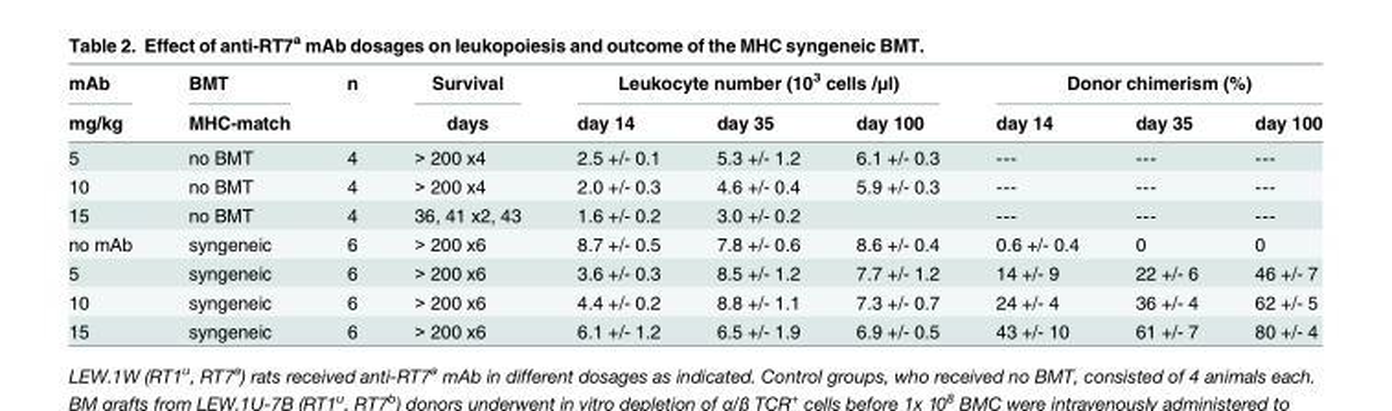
<table><thead><tr><td rowspan="2">mAb mg/kg</td><td rowspan="2">BMT MHC-match</td><td rowspan="2">n</td><td rowspan="2">Survival days</td><td colspan="3">Leukocyte number (10<sup>3</sup> cells /μl)</td><td colspan="3">Donor chimerism (%)</td></tr><tr><td>day 14</td><td>day 35</td><td>day 100</td><td>day 14</td><td>day 35</td><td>day 100</td></tr></thead><tbody><tr><td>5</td><td>no BMT</td><td>4</td><td>&gt; 200 x4</td><td>2.5 +/- 0.1</td><td>5.3 +/- 1.2</td><td>6.1 +/- 0.3</td><td>---</td><td>---</td><td>---</td></tr><tr><td>10</td><td>no BMT</td><td>4</td><td>&gt; 200 x4</td><td>2.0 +/- 0.3</td><td>4.6 +/- 0.4</td><td>5.9 +/- 0.3</td><td>---</td><td>---</td><td>---</td></tr><tr><td>15</td><td>no BMT</td><td>4</td><td>36, 41 x2, 43</td><td>1.6 +/- 0.2</td><td>3.0 +/- 0.2</td><td></td><td>---</td><td>---</td><td>---</td></tr><tr><td>no mAb</td><td>syngeneic</td><td>6</td><td>&gt; 200 x6</td><td>8.7 +/- 0.5</td><td>7.8 +/- 0.6</td><td>8.6 +/- 0.4</td><td>0.6 +/- 0.4</td><td>0</td><td>0</td></tr><tr><td>5</td><td>syngeneic</td><td>6</td><td>&gt; 200 x6</td><td>3.6 +/- 0.3</td><td>8.5 +/- 1.2</td><td>7.7 +/- 1.2</td><td>14 +/- 9</td><td>22 +/- 6</td><td>46 +/- 7</td></tr><tr><td>10</td><td>syngeneic</td><td>6</td><td>&gt; 200 x6</td><td>4.4 +/- 0.2</td><td>8.8 +/- 1.1</td><td>7.3 +/- 0.7</td><td>24 +/- 4</td><td>36 +/- 4</td><td>62 +/- 5</td></tr><tr><td>15</td><td>syngeneic</td><td>6</td><td>&gt; 200 x6</td><td>6.1 +/- 1.2</td><td>6.5 +/- 1.9</td><td>6.9 +/- 0.5</td><td>43 +/- 10</td><td>61 +/- 7</td><td>80 +/- 4</td></tr></tbody></table>